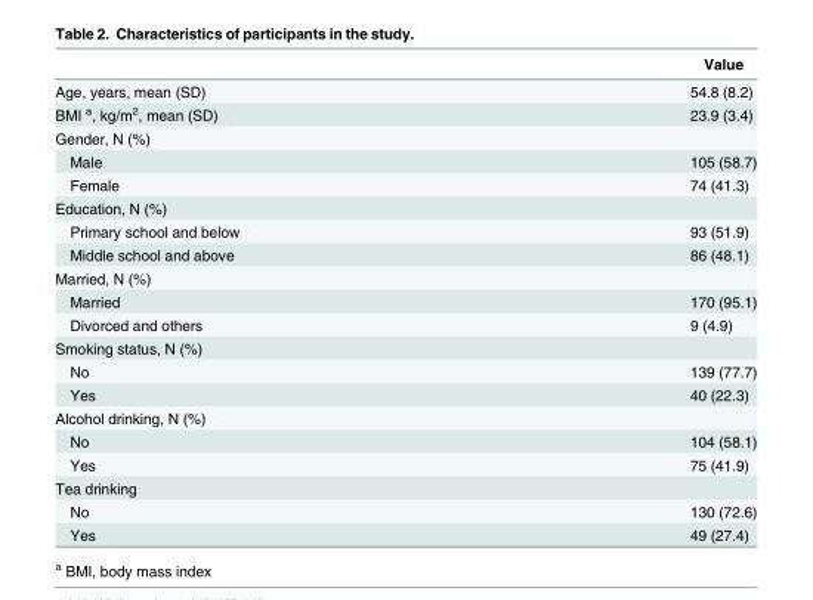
<table><thead><tr><td></td><td>Value</td></tr></thead><tbody><tr><td>Age, years, mean (SD)</td><td>54.8 (8.2)</td></tr><tr><td>BMI <sup>a</sup>, kg/m<sup>2</sup>, mean (SD)</td><td>23.9 (3.4)</td></tr><tr><td colspan="2">Gender, N (%)</td></tr><tr><td>Male</td><td>105 (58.7)</td></tr><tr><td>Female</td><td>74 (41.3)</td></tr><tr><td colspan="2">Education, N (%)</td></tr><tr><td>Primary school and below</td><td>93 (51.9)</td></tr><tr><td>Middle school and above</td><td>86 (48.1)</td></tr><tr><td colspan="2">Married, N (%)</td></tr><tr><td>Married</td><td>170 (95.1)</td></tr><tr><td>Divorced and others</td><td>9 (4.9)</td></tr><tr><td colspan="2">Smoking status, N (%)</td></tr><tr><td>No</td><td>139 (77.7)</td></tr><tr><td>Yes</td><td>40 (22.3)</td></tr><tr><td colspan="2">Alcohol drinking, N (%)</td></tr><tr><td>No</td><td>104 (58.1)</td></tr><tr><td>Yes</td><td>75 (41.9)</td></tr><tr><td colspan="2">Tea drinking</td></tr><tr><td>No</td><td>130 (72.6)</td></tr><tr><td>Yes</td><td>49 (27.4)</td></tr></tbody></table>